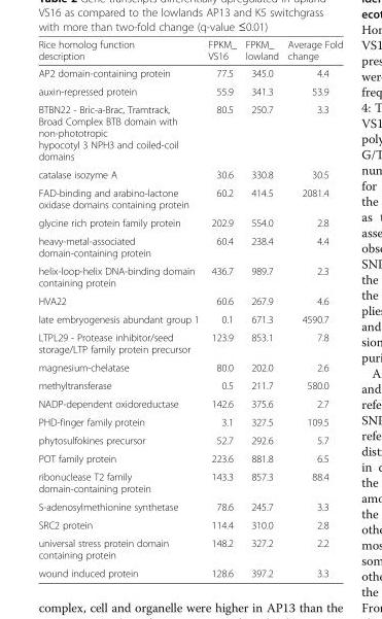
<table><thead><tr><td>Rice homolog function description</td><td>FPKM_ VS16</td><td>FPKM_ lowland</td><td>Average Fold change</td></tr></thead><tbody><tr><td>AP2 domain-containing protein</td><td>77.5</td><td>345.0</td><td>4.4</td></tr><tr><td>auxin-repressed protein</td><td>55.9</td><td>341.3</td><td>53.9</td></tr><tr><td>BTBN22 - Bric-a-Brac, Tramtrack, Broad Complex BTB domain with non-phototropic hypocotyl 3 NPH3 and coiled-coil domains</td><td>80.5</td><td>250.7</td><td>3.3</td></tr><tr><td>catalase isozyme A</td><td>30.6</td><td>330.8</td><td>30.5</td></tr><tr><td>FAD-binding and arabino-lactone oxidase domains containing protein</td><td>60.2</td><td>414.5</td><td>2081.4</td></tr><tr><td>glycine rich protein family protein</td><td>202.9</td><td>554.0</td><td>2.8</td></tr><tr><td>heavy-metal-associated domain-containing protein</td><td>60.4</td><td>238.4</td><td>4.4</td></tr><tr><td>helix-loop-helix DNA-binding domain containing protein</td><td>436.7</td><td>989.7</td><td>2.3</td></tr><tr><td>HVA22</td><td>60.6</td><td>267.9</td><td>4.6</td></tr><tr><td>late embryogenesis abundant group 1</td><td>0.1</td><td>671.3</td><td>4590.7</td></tr><tr><td>LTPL29 - Protease inhibitor/seed storage/LTP family protein precursor</td><td>123.9</td><td>853.1</td><td>7.8</td></tr><tr><td>magnesium-chelatase</td><td>80.0</td><td>202.0</td><td>2.6</td></tr><tr><td>methyltransferase</td><td>0.5</td><td>211.7</td><td>580.0</td></tr><tr><td>NADP-dependent oxidoreductase</td><td>142.6</td><td>375.6</td><td>2.7</td></tr><tr><td>PHD-finger family protein</td><td>3.1</td><td>327.5</td><td>109.5</td></tr><tr><td>phytosulfokines precursor</td><td>52.7</td><td>292.6</td><td>5.7</td></tr><tr><td>POT family protein</td><td>223.6</td><td>881.8</td><td>6.5</td></tr><tr><td>ribonuclease T2 family domain-containing protein</td><td>143.3</td><td>857.3</td><td>88.4</td></tr><tr><td>S-adenosylmethionine synthetase</td><td>78.6</td><td>245.7</td><td>3.3</td></tr><tr><td>SRC2 protein</td><td>114.4</td><td>310.0</td><td>2.8</td></tr><tr><td>universal stress protein domain containing protein</td><td>148.2</td><td>327.2</td><td>2.2</td></tr><tr><td>wound induced protein</td><td>128.6</td><td>397.2</td><td>3.3</td></tr></tbody></table>